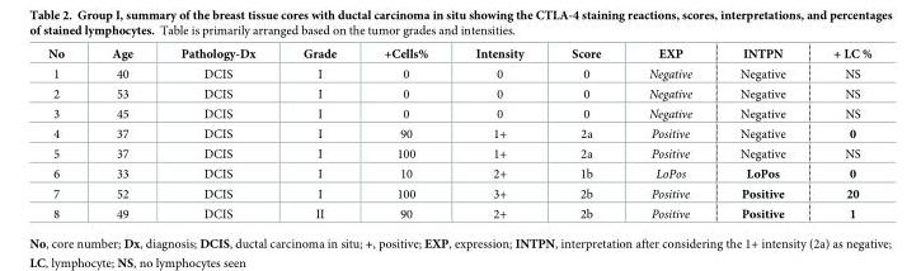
<table><thead><tr><td>No</td><td>Age</td><td>Pathology-Dx</td><td>Grade</td><td>+Cells%</td><td>Intensity</td><td>Score</td><td>EXP</td><td>INTPN</td><td>+ LC %</td></tr></thead><tbody><tr><td>1</td><td>40</td><td>DCIS</td><td>I</td><td>0</td><td>0</td><td>0</td><td>Negative</td><td>Negative</td><td>NS</td></tr><tr><td>2</td><td>53</td><td>DCIS</td><td>I</td><td>0</td><td>0</td><td>0</td><td>Negative</td><td>Negative</td><td>NS</td></tr><tr><td>3</td><td>45</td><td>DCIS</td><td>I</td><td>0</td><td>0</td><td>0</td><td>Negative</td><td>Negative</td><td>NS</td></tr><tr><td>4</td><td>37</td><td>DCIS</td><td>I</td><td>90</td><td>1+</td><td>2a</td><td>Positive</td><td>Negative</td><td>0</td></tr><tr><td>5</td><td>37</td><td>DCIS</td><td>I</td><td>100</td><td>1+</td><td>2a</td><td>Positive</td><td>Negative</td><td>NS</td></tr><tr><td>6</td><td>33</td><td>DCIS</td><td>I</td><td>10</td><td>2+</td><td>1b</td><td>LoPos</td><td>LoPos</td><td>0</td></tr><tr><td>7</td><td>52</td><td>DCIS</td><td>I</td><td>100</td><td>3+</td><td>2b</td><td>Positive</td><td>Positive</td><td>20</td></tr><tr><td>8</td><td>49</td><td>DCIS</td><td>II</td><td>90</td><td>2+</td><td>2b</td><td>Positive</td><td>Positive</td><td>1</td></tr></tbody></table>